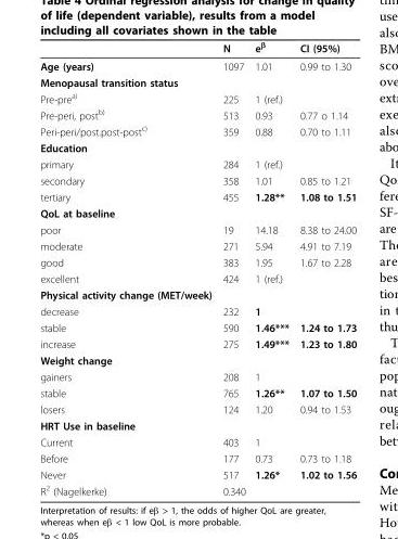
<table><thead><tr><td></td><td>N</td><td>e<sup>β</sup></td><td>CI (95%)</td></tr></thead><tbody><tr><td>Age (years)</td><td>1097</td><td>1.01</td><td>0.99 to 1.30</td></tr><tr><td colspan="4">Menopausal transition status</td></tr><tr><td>Pre-pre<sup>a)</sup></td><td>225</td><td>1 (ref.)</td><td></td></tr><tr><td>Pre-peri, post<sup>b)</sup></td><td>513</td><td>0.93</td><td>0.77 o 1.14</td></tr><tr><td>Peri-peri/post.post-post<sup>c)</sup></td><td>359</td><td>0.88</td><td>0.70 to 1.11</td></tr><tr><td colspan="4">Education</td></tr><tr><td>primary</td><td>284</td><td>1 (ref.)</td><td></td></tr><tr><td>secondary</td><td>358</td><td>1.01</td><td>0.85 to 1.21</td></tr><tr><td>tertiary</td><td>455</td><td>1.28**</td><td>1.08 to 1.51</td></tr><tr><td colspan="4">QoL at baseline</td></tr><tr><td>poor</td><td>19</td><td>14.18</td><td>8.38 to 24.00</td></tr><tr><td>moderate</td><td>271</td><td>5.94</td><td>4.91 to 7.19</td></tr><tr><td>good</td><td>383</td><td>1.95</td><td>1.67 to 2.28</td></tr><tr><td>excellent</td><td>424</td><td>1 (ref.)</td><td></td></tr><tr><td colspan="4">Physical activity change (MET/week)</td></tr><tr><td>decrease</td><td>232</td><td>1</td><td></td></tr><tr><td>stable</td><td>590</td><td>1.46***</td><td>1.24 to 1.73</td></tr><tr><td>increase</td><td>275</td><td>1.49***</td><td>1.23 to 1.80</td></tr><tr><td colspan="4">Weight change</td></tr><tr><td>gainers</td><td>208</td><td>1</td><td></td></tr><tr><td>stable</td><td>765</td><td>1.26**</td><td>1.07 to 1.50</td></tr><tr><td>losers</td><td>124</td><td>1.20</td><td>0.94 to 1.53</td></tr><tr><td colspan="4">HRT Use in baseline</td></tr><tr><td>Current</td><td>403</td><td>1</td><td></td></tr><tr><td>Before</td><td>177</td><td>0.73</td><td>0.73 to 1.18</td></tr><tr><td>Never</td><td>517</td><td>1.26*</td><td>1.02 to 1.56</td></tr><tr><td>R<sup>2</sup> (Nagelkerke)</td><td colspan="3">0.340</td></tr></tbody></table>